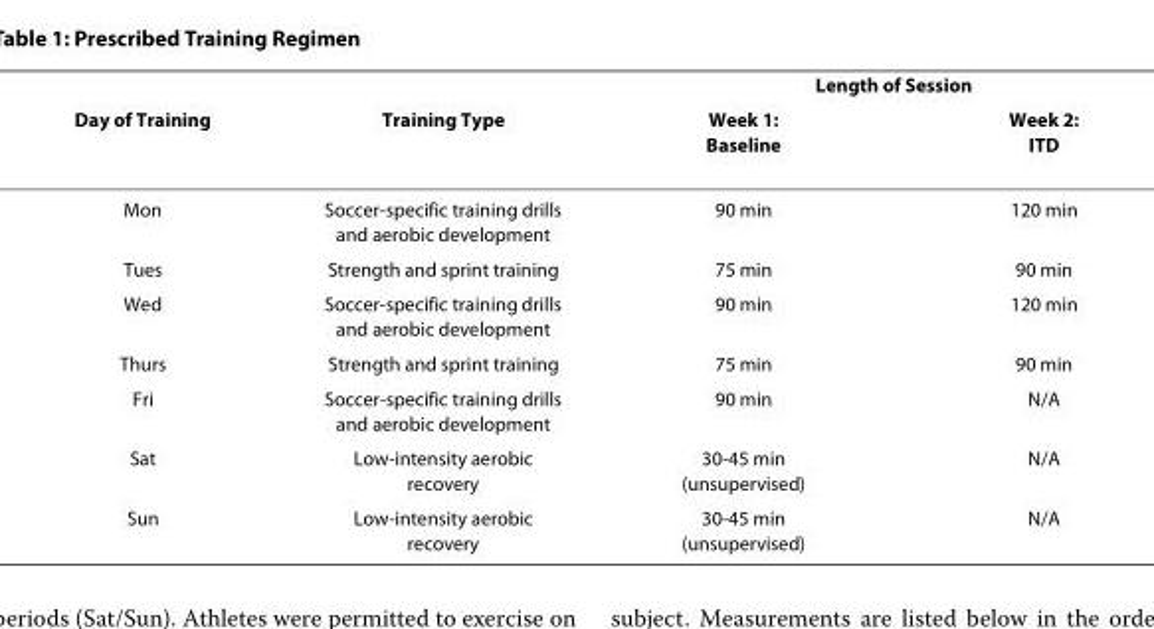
<table><thead><tr><td rowspan="2">Day of Training</td><td rowspan="2">Training Type</td><td colspan="2">Length of Session</td></tr><tr><td>Week 1: Baseline</td><td>Week 2: ITD</td></tr></thead><tbody><tr><td>Mon</td><td>Soccer-specific training drills and aerobic development</td><td>90 min</td><td>120 min</td></tr><tr><td>Tues</td><td>Strength and sprint training</td><td>75 min</td><td>90 min</td></tr><tr><td>Wed</td><td>Soccer-specific training drills and aerobic development</td><td>90 min</td><td>120 min</td></tr><tr><td>Thurs</td><td>Strength and sprint training</td><td>75 min</td><td>90 min</td></tr><tr><td>Fri</td><td>Soccer-specific training drills and aerobic development</td><td>90 min</td><td>N/A</td></tr><tr><td>Sat</td><td>Low-intensity aerobic recovery</td><td>30-45 min (unsupervised)</td><td>N/A</td></tr><tr><td>Sun</td><td>Low-intensity aerobic recovery</td><td>30-45 min (unsupervised)</td><td>N/A</td></tr></tbody></table>